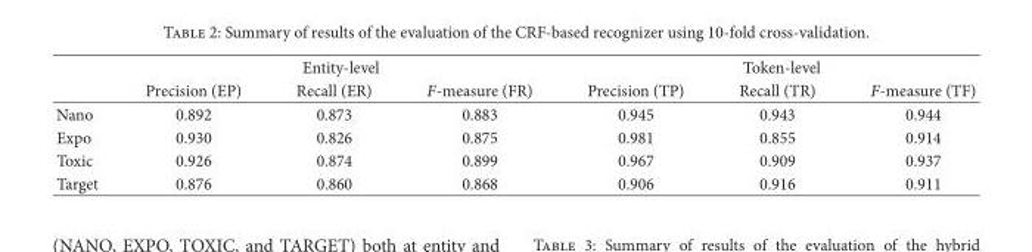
<table><thead><tr><td rowspan="2"></td><td colspan="3">Entity-level</td><td colspan="3">Token-level</td></tr><tr><td>Precision (EP)</td><td>Recall (ER)</td><td>F-measure (FR)</td><td>Precision (TP)</td><td>Recall (TR)</td><td>F-measure (TF)</td></tr></thead><tbody><tr><td>Nano</td><td>0.892</td><td>0.873</td><td>0.883</td><td>0.945</td><td>0.943</td><td>0.944</td></tr><tr><td>Expo</td><td>0.930</td><td>0.826</td><td>0.875</td><td>0.981</td><td>0.855</td><td>0.914</td></tr><tr><td>Toxic</td><td>0.926</td><td>0.874</td><td>0.899</td><td>0.967</td><td>0.909</td><td>0.937</td></tr><tr><td>Target</td><td>0.876</td><td>0.860</td><td>0.868</td><td>0.906</td><td>0.916</td><td>0.911</td></tr></tbody></table>